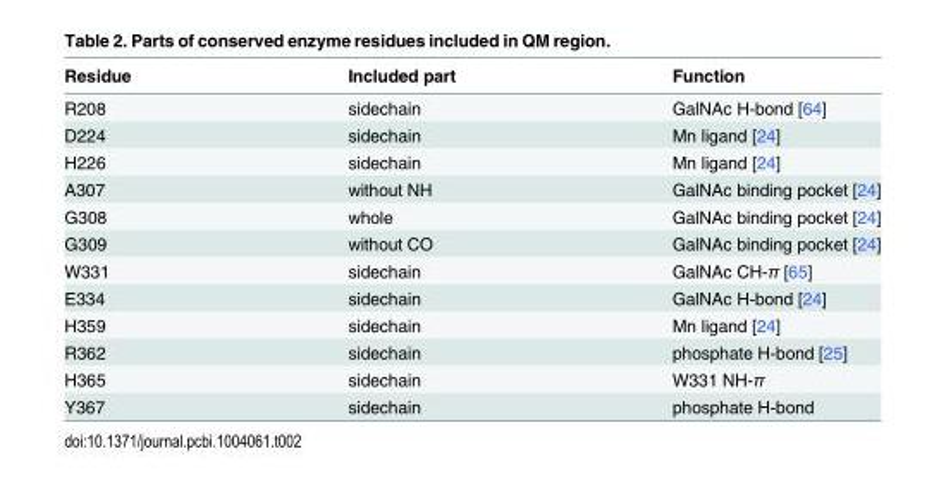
<table><thead><tr><td>Residue</td><td>Included part</td><td>Function</td></tr></thead><tbody><tr><td>R208</td><td>sidechain</td><td>GalNAc H-bond [64]</td></tr><tr><td>D224</td><td>sidechain</td><td>Mn ligand [24]</td></tr><tr><td>H226</td><td>sidechain</td><td>Mn ligand [24]</td></tr><tr><td>A307</td><td>without NH</td><td>GalNAc binding pocket [24]</td></tr><tr><td>G308</td><td>whole</td><td>GalNAc binding pocket [24]</td></tr><tr><td>G309</td><td>without CO</td><td>GalNAc binding pocket [24]</td></tr><tr><td>W331</td><td>sidechain</td><td>GalNAc CH-π [65]</td></tr><tr><td>E334</td><td>sidechain</td><td>GalNAc H-bond [24]</td></tr><tr><td>H359</td><td>sidechain</td><td>Mn ligand [24]</td></tr><tr><td>R362</td><td>sidechain</td><td>phosphate H-bond [25]</td></tr><tr><td>H365</td><td>sidechain</td><td>W331 NH-π</td></tr><tr><td>Y367</td><td>sidechain</td><td>phosphate H-bond</td></tr></tbody></table>